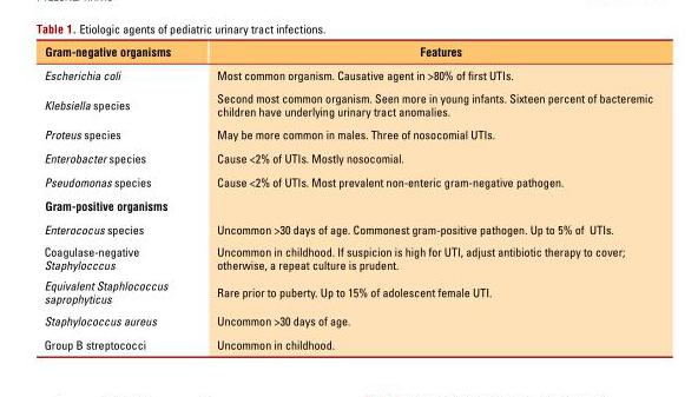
<table><thead><tr><td>Gram-negative organisms</td><td>Features</td></tr></thead><tbody><tr><td>Escherichia coli</td><td>Most common organism. Causative agent in &gt;80% of first UTIs.</td></tr><tr><td>Klebsiella species</td><td>Second most common organism. Seen more in young infants. Sixteen percent of bacteremic children have underlying urinary tract anomalies.</td></tr><tr><td>Proteus species</td><td>May be more common in males. Three of nosocomial UTIs.</td></tr><tr><td>Enterobacter species</td><td>Cause &lt;2% of UTIs. Mostly nosocomial.</td></tr><tr><td>Pseudomonas species</td><td>Cause &lt;2% of UTIs. Most prevalent non-enteric gram-negative pathogen.</td></tr><tr><td colspan="2">Gram-positive organisms</td></tr><tr><td>Enterococus species</td><td>Uncommon &gt;30 days of age. Commonest gram-positive pathogen. Up to 5% of UTIs.</td></tr><tr><td>Coagulase-negative Staphylocccus</td><td>Uncommon in childhood. If suspicion is high for UTI, adjust antibiotic therapy to cover; otherwise, a repeat culture is prudent.</td></tr><tr><td>Equivalent Staphlococcus saprophyticus</td><td>Rare prior to puberty. Up to 15% of adolescent female UTI.</td></tr><tr><td>Staphylococcus aureus</td><td>Uncommon &gt;30 days of age.</td></tr><tr><td>Group B streptococci</td><td>Uncommon in childhood.</td></tr></tbody></table>